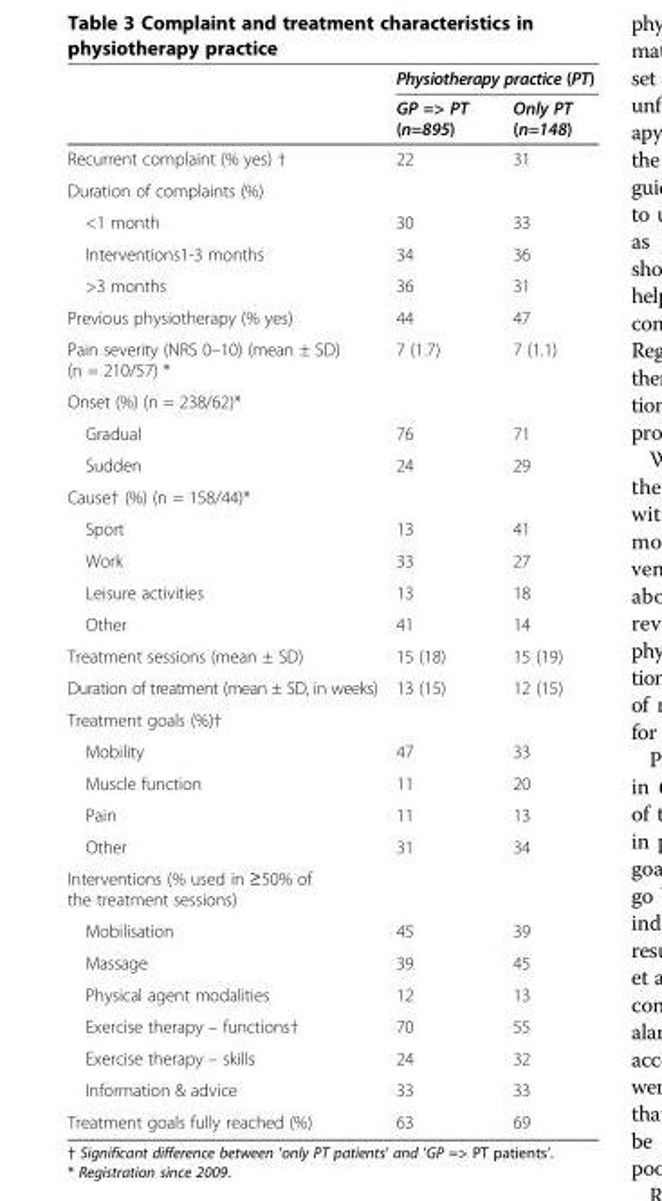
<table><thead><tr><td rowspan="2"></td><td colspan="2">Physiotherapy practice (PT)</td></tr><tr><td>GP =&gt; PT (n=895)</td><td>Only PT (n=148)</td></tr></thead><tbody><tr><td>Recurrent complaint (% yes) †</td><td>22</td><td>31</td></tr><tr><td colspan="3">Duration of complaints (%)</td></tr><tr><td>&lt;1 month</td><td>30</td><td>33</td></tr><tr><td>Interventions1-3 months</td><td>34</td><td>36</td></tr><tr><td>&gt;3 months</td><td>36</td><td>31</td></tr><tr><td>Previous physiotherapy (% yes)</td><td>44</td><td>47</td></tr><tr><td>Pain severity (NRS 0–10) (mean ± SD) (n = 210/57) *</td><td>7 (1.7)</td><td>7 (1.1)</td></tr><tr><td colspan="3">Onset (%) (n = 238/62)*</td></tr><tr><td>Gradual</td><td>76</td><td>71</td></tr><tr><td>Sudden</td><td>24</td><td>29</td></tr><tr><td colspan="3">Cause† (%) (n = 158/44)*</td></tr><tr><td>Sport</td><td>13</td><td>41</td></tr><tr><td>Work</td><td>33</td><td>27</td></tr><tr><td>Leisure activities</td><td>13</td><td>18</td></tr><tr><td>Other</td><td>41</td><td>14</td></tr><tr><td>Treatment sessions (mean ± SD)</td><td>15 (18)</td><td>15 (19)</td></tr><tr><td>Duration of treatment (mean ± SD, in weeks)</td><td>13 (15)</td><td>12 (15)</td></tr><tr><td colspan="3">Treatment goals (%)†</td></tr><tr><td>Mobility</td><td>47</td><td>33</td></tr><tr><td>Muscle function</td><td>11</td><td>20</td></tr><tr><td>Pain</td><td>11</td><td>13</td></tr><tr><td>Other</td><td>31</td><td>34</td></tr><tr><td colspan="3">Interventions (% used in ≥50% of the treatment sessions)</td></tr><tr><td>Mobilisation</td><td>45</td><td>39</td></tr><tr><td>Massage</td><td>39</td><td>45</td></tr><tr><td>Physical agent modalities</td><td>12</td><td>13</td></tr><tr><td>Exercise therapy – functions†</td><td>70</td><td>55</td></tr><tr><td>Exercise therapy – skills</td><td>24</td><td>32</td></tr><tr><td>Information &amp; advice</td><td>33</td><td>33</td></tr><tr><td>Treatment goals fully reached (%)</td><td>63</td><td>69</td></tr></tbody></table>